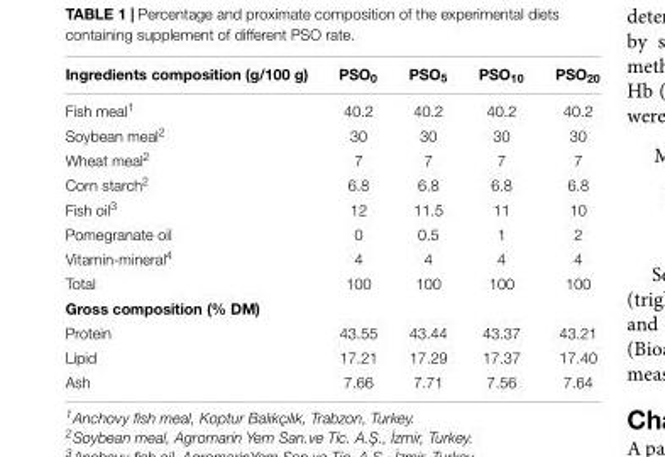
<table><thead><tr><td>Ingredients composition (g/100 g)</td><td>PSO<sub>0</sub></td><td>PSO<sub>5</sub></td><td>PSO<sub>10</sub></td><td>PSO<sub>20</sub></td></tr></thead><tbody><tr><td>Fish meal<sup>1</sup></td><td>40.2</td><td>40.2</td><td>40.2</td><td>40.2</td></tr><tr><td>Soybean meal<sup>2</sup></td><td>30</td><td>30</td><td>30</td><td>30</td></tr><tr><td>Wheat meal<sup>2</sup></td><td>7</td><td>7</td><td>7</td><td>7</td></tr><tr><td>Corn starch<sup>2</sup></td><td>6.8</td><td>6.8</td><td>6.8</td><td>6.8</td></tr><tr><td>Fish oil<sup>3</sup></td><td>12</td><td>11.5</td><td>11</td><td>10</td></tr><tr><td>Pomegranate oil</td><td>0</td><td>0.5</td><td>1</td><td>2</td></tr><tr><td>Vitamin-mineral<sup>4</sup></td><td>4</td><td>4</td><td>4</td><td>4</td></tr><tr><td>Total</td><td>100</td><td>100</td><td>100</td><td>100</td></tr><tr><td colspan="5">Gross composition (% DM)</td></tr><tr><td>Protein</td><td>43.55</td><td>43.44</td><td>43.37</td><td>43.21</td></tr><tr><td>Lipid</td><td>17.21</td><td>17.29</td><td>17.37</td><td>17.40</td></tr><tr><td>Ash</td><td>7.66</td><td>7.71</td><td>7.56</td><td>7.64</td></tr></tbody></table>